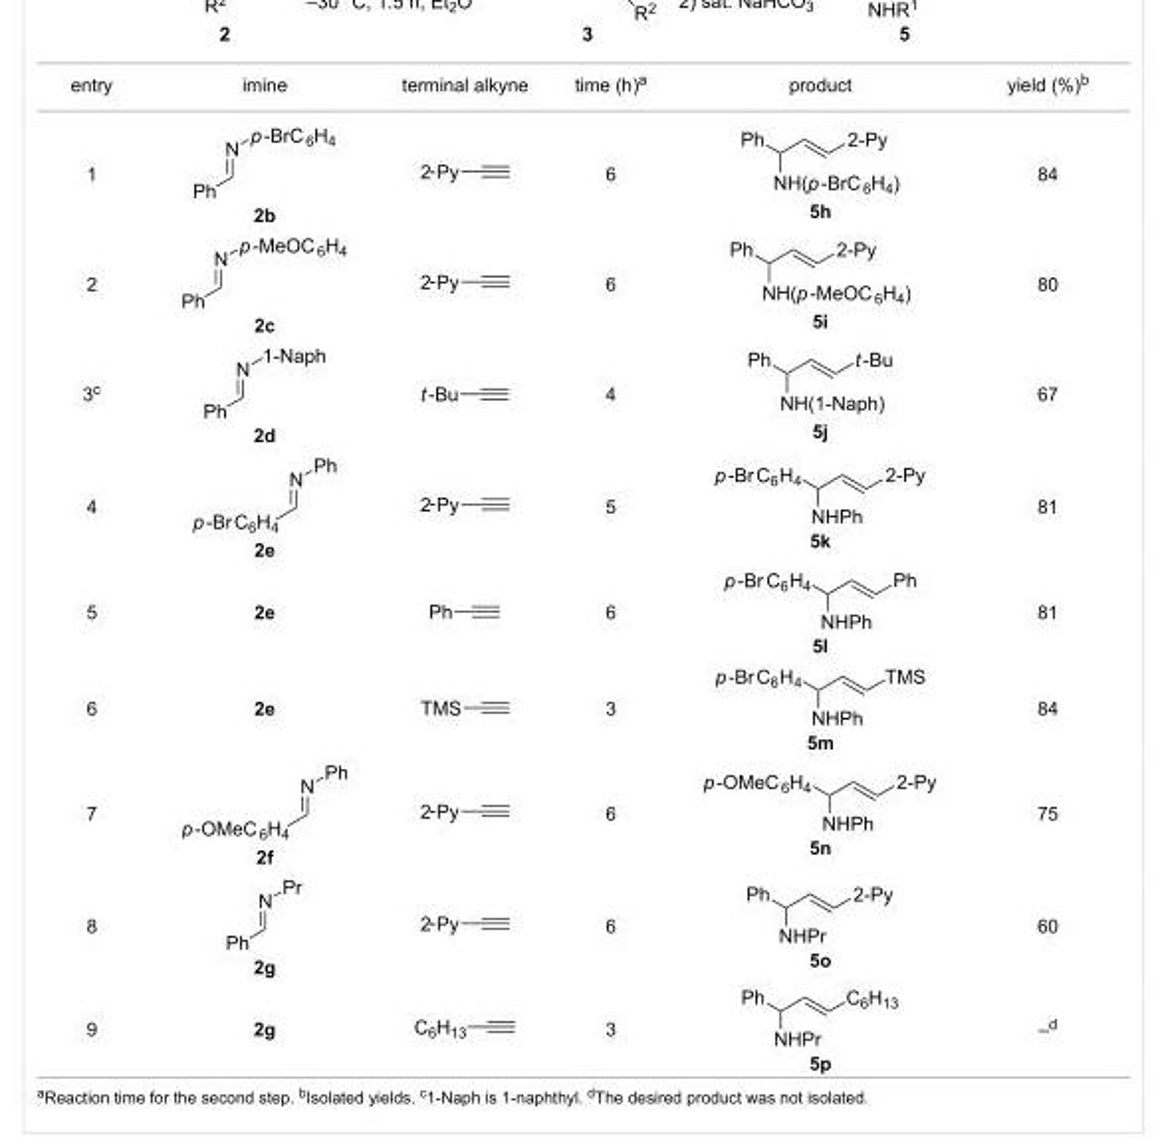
<table><tbody><tr><td>entry</td><td>imine</td><td>terminal alkyne</td><td>time (h)<sup>a</sup></td><td>product</td><td>yield (%)<sup>b</sup></td></tr><tr><td>1</td><td>2b</td><td></td><td>6</td><td>5h</td><td>84</td></tr><tr><td>2</td><td>2c</td><td></td><td>6</td><td>5i</td><td>80</td></tr><tr><td>3<sup>c</sup></td><td>2d</td><td></td><td>4</td><td>5j</td><td>67</td></tr><tr><td>4</td><td>2e</td><td></td><td>5</td><td>5k</td><td>81</td></tr><tr><td>5</td><td>2e</td><td></td><td>6</td><td>5l</td><td>81</td></tr><tr><td>6</td><td>2e</td><td></td><td>3</td><td>5m</td><td>84</td></tr><tr><td>7</td><td>2f</td><td></td><td>6</td><td>5n</td><td>75</td></tr><tr><td>8</td><td>2g</td><td></td><td>6</td><td>5o</td><td>60</td></tr><tr><td>9</td><td>2g</td><td></td><td>3</td><td>5p</td><td>–<sup>d</sup></td></tr></tbody></table>